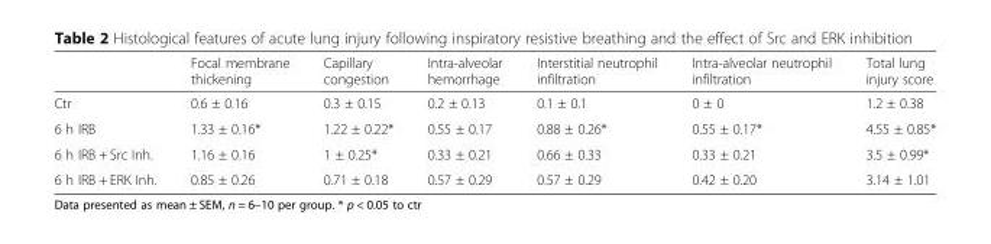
<table><thead><tr><td></td><td>Focal membrane thickening</td><td>Capillary congestion</td><td>Intra-alveolar hemorrhage</td><td>Interstitial neutrophil infiltration</td><td>Intra-alveolar neutrophil infiltration</td><td>Total lung injury score</td></tr></thead><tbody><tr><td>Ctr</td><td>0.6 ± 0.16</td><td>0.3 ± 0.15</td><td>0.2 ± 0.13</td><td>0.1 ± 0.1</td><td>0 ± 0</td><td>1.2 ± 0.38</td></tr><tr><td>6 h IRB</td><td>1.33 ± 0.16*</td><td>1.22 ± 0.22*</td><td>0.55 ± 0.17</td><td>0.88 ± 0.26*</td><td>0.55 ± 0.17*</td><td>4.55 ± 0.85*</td></tr><tr><td>6 h IRB + Src Inh.</td><td>1.16 ± 0.16</td><td>1 ± 0.25*</td><td>0.33 ± 0.21</td><td>0.66 ± 0.33</td><td>0.33 ± 0.21</td><td>3.5 ± 0.99*</td></tr><tr><td>6 h IRB + ERK Inh.</td><td>0.85 ± 0.26</td><td>0.71 ± 0.18</td><td>0.57 ± 0.29</td><td>0.57 ± 0.29</td><td>0.42 ± 0.20</td><td>3.14 ± 1.01</td></tr></tbody></table>